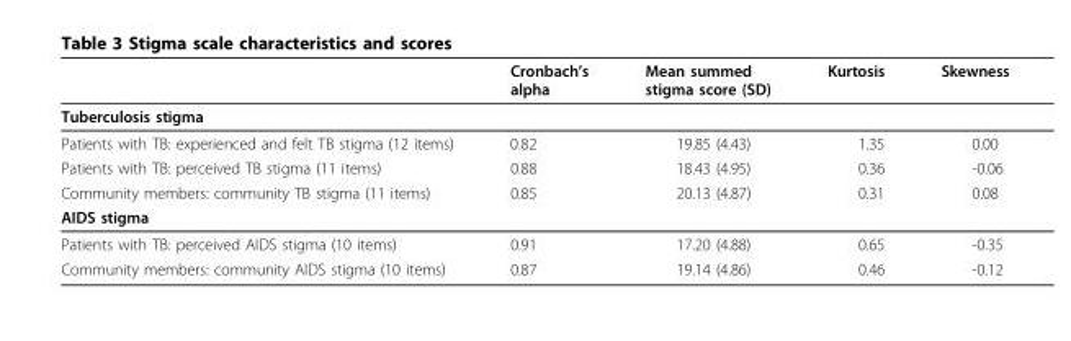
<table><thead><tr><td></td><td>Cronbach’s alpha</td><td>Mean summed stigma score (SD)</td><td>Kurtosis</td><td>Skewness</td></tr></thead><tbody><tr><td colspan="5">Tuberculosis stigma</td></tr><tr><td>Patients with TB: experienced and felt TB stigma (12 items)</td><td>0.82</td><td>19.85 (4.43)</td><td>1.35</td><td>0.00</td></tr><tr><td>Patients with TB: perceived TB stigma (11 items)</td><td>0.88</td><td>18.43 (4.95)</td><td>0.36</td><td>-0.06</td></tr><tr><td>Community members: community TB stigma (11 items)</td><td>0.85</td><td>20.13 (4.87)</td><td>0.31</td><td>0.08</td></tr><tr><td colspan="5">AIDS stigma</td></tr><tr><td>Patients with TB: perceived AIDS stigma (10 items)</td><td>0.91</td><td>17.20 (4.88)</td><td>0.65</td><td>-0.35</td></tr><tr><td>Community members: community AIDS stigma (10 items)</td><td>0.87</td><td>19.14 (4.86)</td><td>0.46</td><td>-0.12</td></tr></tbody></table>